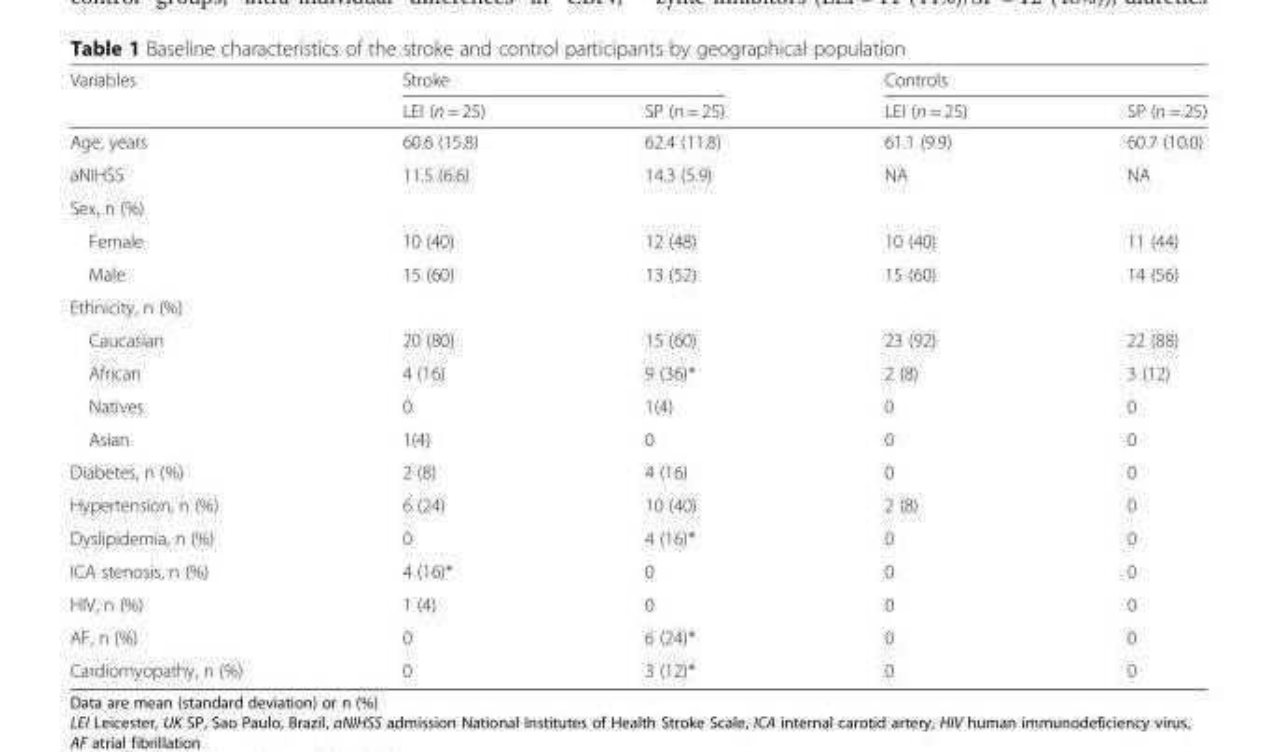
<table><thead><tr><td rowspan="2">Variables</td><td colspan="2">Stroke</td><td colspan="2">Controls</td></tr><tr><td>LEI (n = 25)</td><td>SP (n = 25)</td><td>LEI (n = 25)</td><td>SP (n = 25)</td></tr></thead><tbody><tr><td>Age, years</td><td>60.6 (15.8)</td><td>62.4 (11.8)</td><td>61.1 (9.9)</td><td>60.7 (10.0)</td></tr><tr><td>aNIHSS</td><td>11.5 (6.6)</td><td>14.3 (5.9)</td><td>NA</td><td>NA</td></tr><tr><td colspan="5">Sex, n (%)</td></tr><tr><td>Female</td><td>10 (40)</td><td>12 (48)</td><td>10 (40)</td><td>11 (44)</td></tr><tr><td>Male</td><td>15 (60)</td><td>13 (52)</td><td>15 (60)</td><td>14 (56)</td></tr><tr><td colspan="5">Ethnicity, n (%)</td></tr><tr><td>Caucasian</td><td>20 (80)</td><td>15 (60)</td><td>23 (92)</td><td>22 (88)</td></tr><tr><td>African</td><td>4 (16)</td><td>9 (36)*</td><td>2 (8)</td><td>3 (12)</td></tr><tr><td>Natives</td><td>0</td><td>1(4)</td><td>0</td><td>0</td></tr><tr><td>Asian</td><td>1(4)</td><td>0</td><td>0</td><td>0</td></tr><tr><td>Diabetes, n (%)</td><td>2 (8)</td><td>4 (16)</td><td>0</td><td>0</td></tr><tr><td>Hypertension, n (%)</td><td>6 (24)</td><td>10 (40)</td><td>2 (8)</td><td>0</td></tr><tr><td>Dyslipidemia, n (%)</td><td>0</td><td>4 (16)*</td><td>0</td><td>0</td></tr><tr><td>ICA stenosis, n (%)</td><td>4 (16)*</td><td>0</td><td>0</td><td>0</td></tr><tr><td>HIV, n (%)</td><td>1 (4)</td><td>0</td><td>0</td><td>0</td></tr><tr><td>AF, n (%)</td><td>0</td><td>6 (24)*</td><td>0</td><td>0</td></tr><tr><td>Cardiomyopathy, n (%)</td><td>0</td><td>3 (12)*</td><td>0</td><td>0</td></tr></tbody></table>